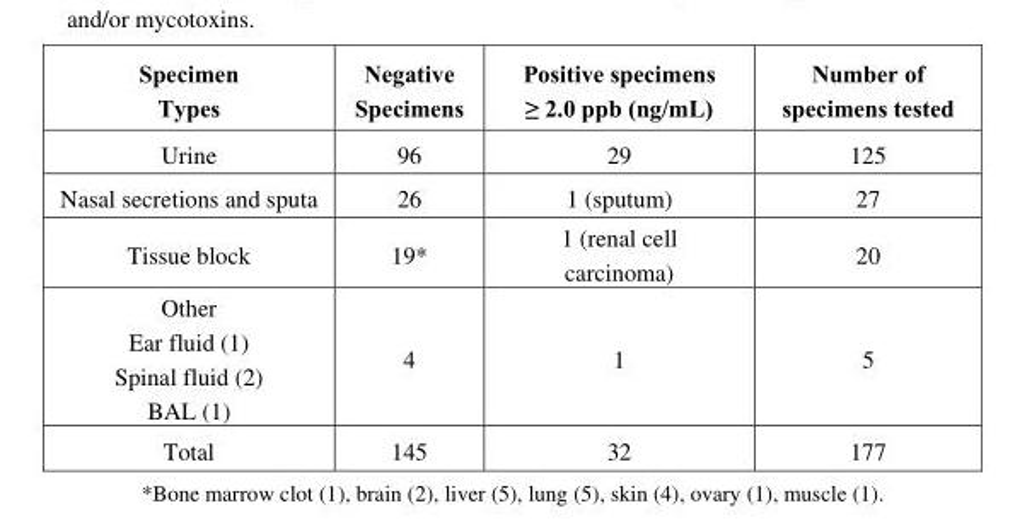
<table><thead><tr><td>Specimen Types</td><td>Negative Specimens</td><td>Positive specimens ≥ 2.0 ppb (ng/mL)</td><td>Number of specimens tested</td></tr></thead><tbody><tr><td>Urine</td><td>96</td><td>29</td><td>125</td></tr><tr><td>Nasal secretions and sputa</td><td>26</td><td>1 (sputum)</td><td>27</td></tr><tr><td>Tissue block</td><td>19*</td><td>1 (renal cell carcinoma)</td><td>20</td></tr><tr><td>Other Ear fluid (1) Spinal fluid (2) BAL (1)</td><td>4</td><td>1</td><td>5</td></tr><tr><td>Total</td><td>145</td><td>32</td><td>177</td></tr></tbody></table>